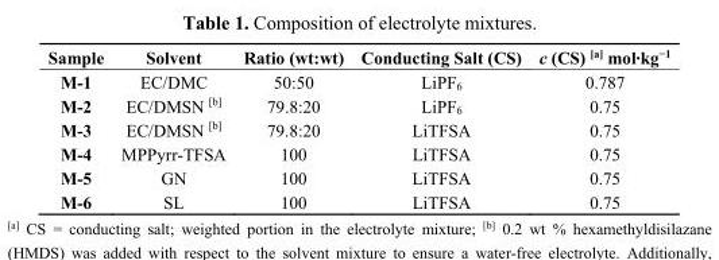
<table><thead><tr><td>Sample</td><td>Solvent</td><td>Ratio (wt:wt)</td><td>Conducting Salt (CS)</td><td>c (CS) [a] mol·kg−1</td></tr></thead><tbody><tr><td>M-1</td><td>EC/DMC</td><td>50:50</td><td>LiPF<sub>6</sub></td><td>0.787</td></tr><tr><td>M-2</td><td>EC/DMSN <sup>[b]</sup></td><td>79.8:20</td><td>LiPF<sub>6</sub></td><td>0.75</td></tr><tr><td>M-3</td><td>EC/DMSN <sup>[b]</sup></td><td>79.8:20</td><td>LiTFSA</td><td>0.75</td></tr><tr><td>M-4</td><td>MPPyrr-TFSA</td><td>100</td><td>LiTFSA</td><td>0.75</td></tr><tr><td>M-5</td><td>GN</td><td>100</td><td>LiTFSA</td><td>0.75</td></tr><tr><td>M-6</td><td>SL</td><td>100</td><td>LiTFSA</td><td>0.75</td></tr></tbody></table>